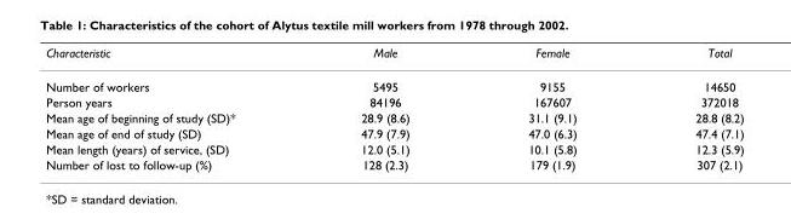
<table><thead><tr><td>Characteristic</td><td>Male</td><td>Female</td><td>Total</td></tr></thead><tbody><tr><td>Number of workers</td><td>5495</td><td>9155</td><td>14650</td></tr><tr><td>Person years</td><td>84196</td><td>167607</td><td>372018</td></tr><tr><td>Mean age of beginning of study (SD)*</td><td>28.9 (8.6)</td><td>31.1 (9.1)</td><td>28.8 (8.2)</td></tr><tr><td>Mean age of end of study (SD)</td><td>47.9 (7.9)</td><td>47.0 (6.3)</td><td>47.4 (7.1)</td></tr><tr><td>Mean length (years) of service, (SD)</td><td>12.0 (5.1)</td><td>10.1 (5.8)</td><td>12.3 (5.9)</td></tr><tr><td>Number of lost to follow-up (%)</td><td>128 (2.3)</td><td>179 (1.9)</td><td>307 (2.1)</td></tr></tbody></table>